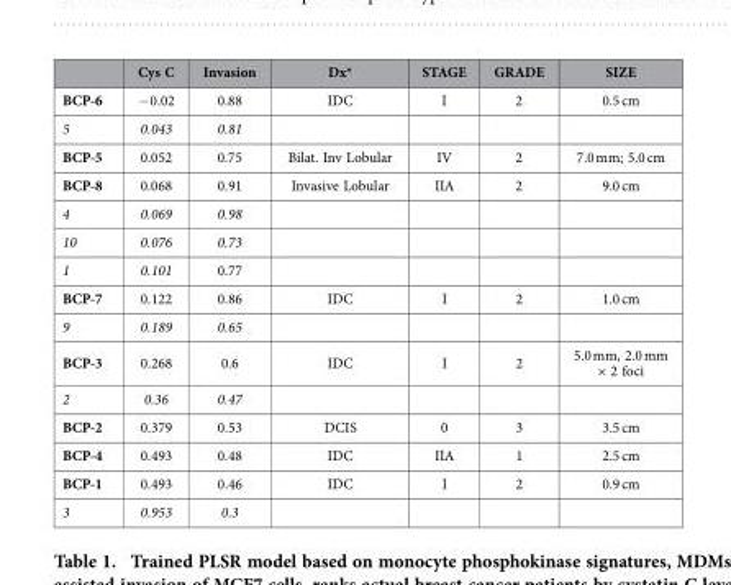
<table><thead><tr><td></td><td>Cys C</td><td>Invasion</td><td>Dx*</td><td>STAGE</td><td>GRADE</td><td>SIZE</td></tr></thead><tbody><tr><td>BCP-6</td><td>− 0.02</td><td>0.88</td><td>IDC</td><td>I</td><td>2</td><td>0.5 cm</td></tr><tr><td>5</td><td>0.043</td><td>0.81</td><td></td><td></td><td></td><td></td></tr><tr><td>BCP-5</td><td>0.052</td><td>0.75</td><td>Bilat. Inv Lobular</td><td>IV</td><td>2</td><td>7.0 mm; 5.0 cm</td></tr><tr><td>BCP-8</td><td>0.068</td><td>0.91</td><td>Invasive Lobular</td><td>IIA</td><td>2</td><td>9.0 cm</td></tr><tr><td>4</td><td>0.069</td><td>0.98</td><td></td><td></td><td></td><td></td></tr><tr><td>10</td><td>0.076</td><td>0.73</td><td></td><td></td><td></td><td></td></tr><tr><td>1</td><td>0.101</td><td>0.77</td><td></td><td></td><td></td><td></td></tr><tr><td>BCP-7</td><td>0.122</td><td>0.86</td><td>IDC</td><td>I</td><td>2</td><td>1.0 cm</td></tr><tr><td>9</td><td>0.189</td><td>0.65</td><td></td><td></td><td></td><td></td></tr><tr><td>BCP-3</td><td>0.268</td><td>0.6</td><td>IDC</td><td>I</td><td>2</td><td>5.0 mm, 2.0 mm × 2 foci</td></tr><tr><td>2</td><td>0.36</td><td>0.47</td><td></td><td></td><td></td><td></td></tr><tr><td>BCP-2</td><td>0.379</td><td>0.53</td><td>DCIS</td><td>0</td><td>3</td><td>3.5 cm</td></tr><tr><td>BCP-4</td><td>0.493</td><td>0.48</td><td>IDC</td><td>IIA</td><td>1</td><td>2.5 cm</td></tr><tr><td>BCP-1</td><td>0.493</td><td>0.46</td><td>IDC</td><td>I</td><td>2</td><td>0.9 cm</td></tr><tr><td>3</td><td>0.953</td><td>0.3</td><td></td><td></td><td></td><td></td></tr></tbody></table>